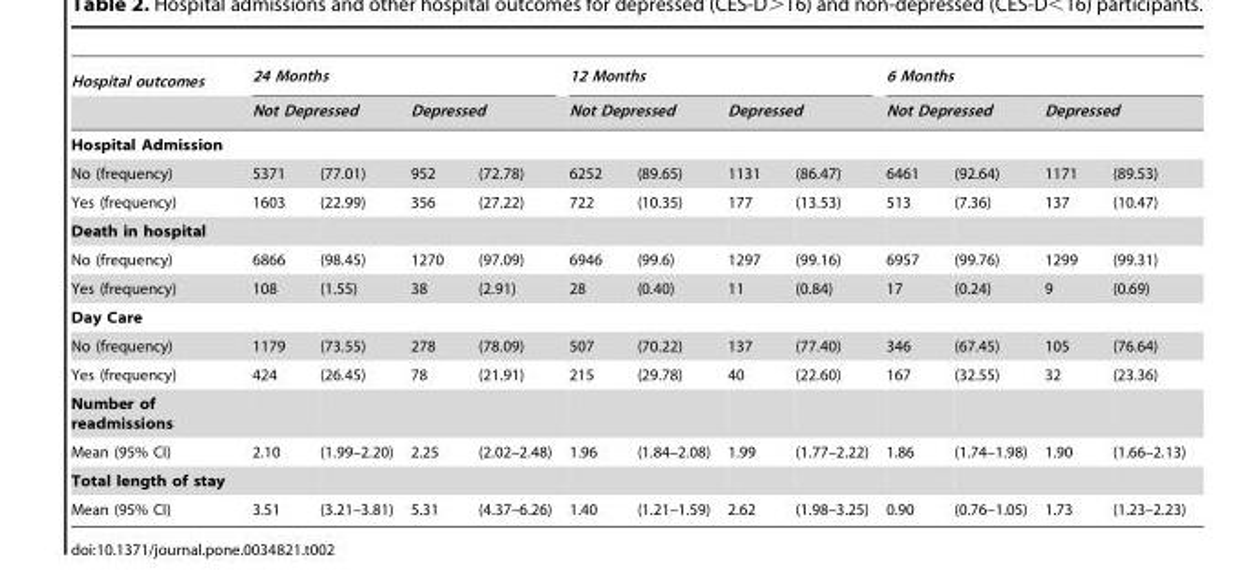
<table><thead><tr><td rowspan="3">Hospital outcomes Hospital Admission</td><td colspan="4">24 Months</td><td colspan="4">12 Months</td><td colspan="4">6 Months</td></tr><tr><td colspan="2">Not Depressed</td><td colspan="2">Depressed</td><td colspan="2">Not Depressed</td><td colspan="2">Depressed</td><td colspan="2">Not Depressed</td><td colspan="2">Depressed</td></tr><tr><td></td><td></td><td></td><td></td><td></td><td></td><td></td><td></td><td></td><td></td><td></td><td></td></tr></thead><tbody><tr><td>No (frequency)</td><td>5371</td><td>(77.01)</td><td>952</td><td>(72.78)</td><td>6252</td><td>(89.65)</td><td>1131</td><td>(86.47)</td><td>6461</td><td>(92.64)</td><td>1171</td><td>(89.53)</td></tr><tr><td>Yes (frequency)</td><td>1603</td><td>(22.99)</td><td>356</td><td>(27.22)</td><td>722</td><td>(10.35)</td><td>177</td><td>(13.53)</td><td>513</td><td>(7.36)</td><td>137</td><td>(10.47)</td></tr><tr><td colspan="13">Death in hospital</td></tr><tr><td>No (frequency)</td><td>6866</td><td>(98.45)</td><td>1270</td><td>(97.09)</td><td>6946</td><td>(99.6)</td><td>1297</td><td>(99.16)</td><td>6957</td><td>(99.76)</td><td>1299</td><td>(99.31)</td></tr><tr><td>Yes (frequency)</td><td>108</td><td>(1.55)</td><td>38</td><td>(2.91)</td><td>28</td><td>(0.40)</td><td>11</td><td>(0.84)</td><td>17</td><td>(0.24)</td><td>9</td><td>(0.69)</td></tr><tr><td colspan="13">Day Care</td></tr><tr><td>No (frequency)</td><td>1179</td><td>(73.55)</td><td>278</td><td>(78.09)</td><td>507</td><td>(70.22)</td><td>137</td><td>(77.40)</td><td>346</td><td>(67.45)</td><td>105</td><td>(76.64)</td></tr><tr><td>Yes (frequency)</td><td>424</td><td>(26.45)</td><td>78</td><td>(21.91)</td><td>215</td><td>(29.78)</td><td>40</td><td>(22.60)</td><td>167</td><td>(32.55)</td><td>32</td><td>(23.36)</td></tr><tr><td colspan="13">Number of readmissions</td></tr><tr><td>Mean (95% CI)</td><td>2.10</td><td>(1.99–2.20)</td><td>2.25</td><td>(2.02–2.48)</td><td>1.96</td><td>(1.84–2.08)</td><td>1.99</td><td>(1.77–2.22)</td><td>1.86</td><td>(1.74–1.98)</td><td>1.90</td><td>(1.66–2.13)</td></tr><tr><td colspan="13">Total length of stay</td></tr><tr><td>Mean (95% CI)</td><td>3.51</td><td>(3.21–3.81)</td><td>5.31</td><td>(4.37–6.26)</td><td>1.40</td><td>(1.21–1.59)</td><td>2.62</td><td>(1.98–3.25)</td><td>0.90</td><td>(0.76–1.05)</td><td>1.73</td><td>(1.23–2.23)</td></tr></tbody></table>